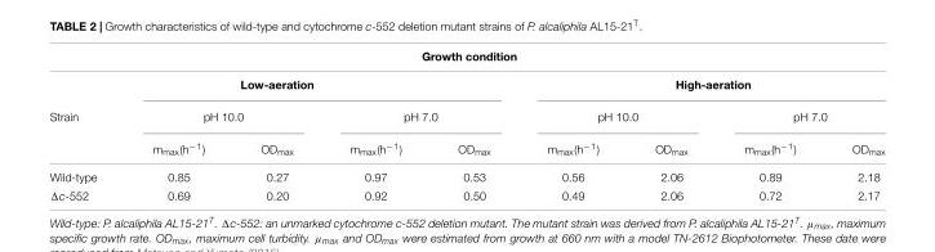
<table><thead><tr><td colspan="9">Growth condition</td></tr><tr><td rowspan="3">Strain</td><td colspan="4">Low-aeration</td><td colspan="4">High-aeration</td></tr><tr><td colspan="2">pH 10.0</td><td colspan="2">pH 7.0</td><td colspan="2">pH 10.0</td><td colspan="2">pH 7.0</td></tr><tr><td>m<sub>max</sub>(h<sup>−1</sup>)</td><td>OD<sub>max</sub></td><td>m<sub>max</sub>(h<sup>−1</sup>)</td><td>OD<sub>max</sub></td><td>m<sub>max</sub>(h<sup>−1</sup>)</td><td>OD<sub>max</sub></td><td>m<sub>max</sub>(h<sup>−1</sup>)</td><td>OD<sub>max</sub></td></tr></thead><tbody><tr><td>Wild-type</td><td>0.85</td><td>0.27</td><td>0.97</td><td>0.53</td><td>0.56</td><td>2.06</td><td>0.89</td><td>2.18</td></tr><tr><td>Δc-552</td><td>0.69</td><td>0.20</td><td>0.92</td><td>0.50</td><td>0.49</td><td>2.06</td><td>0.72</td><td>2.17</td></tr></tbody></table>